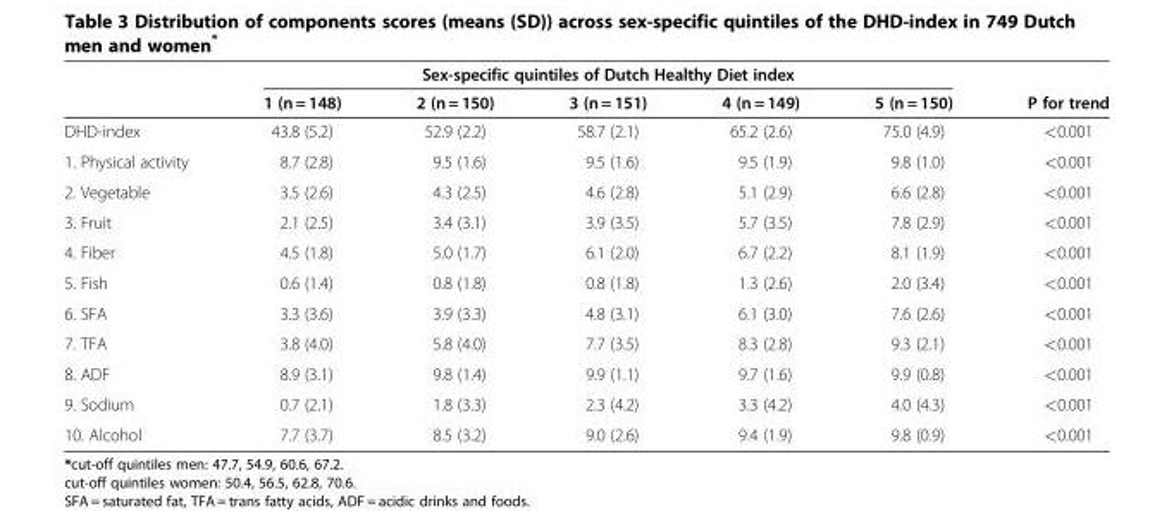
<table><thead><tr><td rowspan="2"></td><td colspan="5">Sex-specific quintiles of Dutch Healthy Diet index</td><td rowspan="2">P for trend</td></tr><tr><td>1 (n = 148)</td><td>2 (n = 150)</td><td>3 (n = 151)</td><td>4 (n = 149)</td><td>5 (n = 150)</td></tr></thead><tbody><tr><td>DHD-index</td><td>43.8 (5.2)</td><td>52.9 (2.2)</td><td>58.7 (2.1)</td><td>65.2 (2.6)</td><td>75.0 (4.9)</td><td>&lt;0.001</td></tr><tr><td>1. Physical activity</td><td>8.7 (2.8)</td><td>9.5 (1.6)</td><td>9.5 (1.6)</td><td>9.5 (1.9)</td><td>9.8 (1.0)</td><td>&lt;0.001</td></tr><tr><td>2. Vegetable</td><td>3.5 (2.6)</td><td>4.3 (2.5)</td><td>4.6 (2.8)</td><td>5.1 (2.9)</td><td>6.6 (2.8)</td><td>&lt;0.001</td></tr><tr><td>3. Fruit</td><td>2.1 (2.5)</td><td>3.4 (3.1)</td><td>3.9 (3.5)</td><td>5.7 (3.5)</td><td>7.8 (2.9)</td><td>&lt;0.001</td></tr><tr><td>4. Fiber</td><td>4.5 (1.8)</td><td>5.0 (1.7)</td><td>6.1 (2.0)</td><td>6.7 (2.2)</td><td>8.1 (1.9)</td><td>&lt;0.001</td></tr><tr><td>5. Fish</td><td>0.6 (1.4)</td><td>0.8 (1.8)</td><td>0.8 (1.8)</td><td>1.3 (2.6)</td><td>2.0 (3.4)</td><td>&lt;0.001</td></tr><tr><td>6. SFA</td><td>3.3 (3.6)</td><td>3.9 (3.3)</td><td>4.8 (3.1)</td><td>6.1 (3.0)</td><td>7.6 (2.6)</td><td>&lt;0.001</td></tr><tr><td>7. TFA</td><td>3.8 (4.0)</td><td>5.8 (4.0)</td><td>7.7 (3.5)</td><td>8.3 (2.8)</td><td>9.3 (2.1)</td><td>&lt;0.001</td></tr><tr><td>8. ADF</td><td>8.9 (3.1)</td><td>9.8 (1.4)</td><td>9.9 (1.1)</td><td>9.7 (1.6)</td><td>9.9 (0.8)</td><td>&lt;0.001</td></tr><tr><td>9. Sodium</td><td>0.7 (2.1)</td><td>1.8 (3.3)</td><td>2.3 (4.2)</td><td>3.3 (4.2)</td><td>4.0 (4.3)</td><td>&lt;0.001</td></tr><tr><td>10. Alcohol</td><td>7.7 (3.7)</td><td>8.5 (3.2)</td><td>9.0 (2.6)</td><td>9.4 (1.9)</td><td>9.8 (0.9)</td><td>&lt;0.001</td></tr></tbody></table>